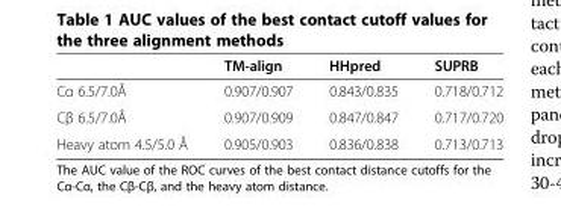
<table><thead><tr><td></td><td>TM-align</td><td>HHpred</td><td>SUPRB</td></tr></thead><tbody><tr><td>Cα 6.5/7.0Å</td><td>0.907/0.907</td><td>0.843/0.835</td><td>0.718/0.712</td></tr><tr><td>Cβ 6.5/7.0Å</td><td>0.907/0.909</td><td>0.847/0.847</td><td>0.717/0.720</td></tr><tr><td>Heavy atom 4.5/5.0 Å</td><td>0.905/0.903</td><td>0.836/0.838</td><td>0.713/0.713</td></tr></tbody></table>